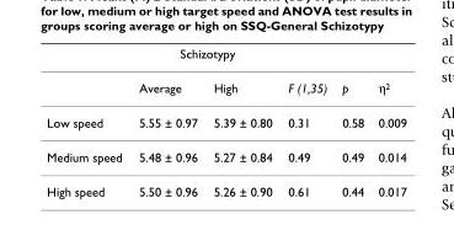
<table><thead><tr><td rowspan="2"></td><td colspan="2">Schizotypy</td><td rowspan="2">F (1,35)</td><td rowspan="2">p</td><td rowspan="2">η<sup>2</sup></td></tr><tr><td>Average</td><td>High</td></tr></thead><tbody><tr><td>Low speed</td><td>5.55 ± 0.97</td><td>5.39 ± 0.80</td><td>0.31</td><td>0.58</td><td>0.009</td></tr><tr><td>Medium speed</td><td>5.48 ± 0.96</td><td>5.27 ± 0.84</td><td>0.49</td><td>0.49</td><td>0.014</td></tr><tr><td>High speed</td><td>5.50 ± 0.96</td><td>5.26 ± 0.90</td><td>0.61</td><td>0.44</td><td>0.017</td></tr></tbody></table>